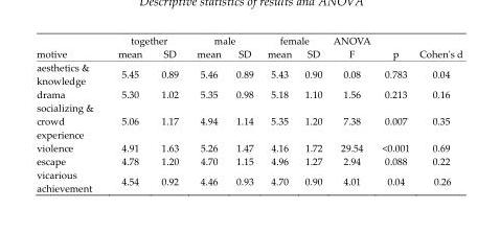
<table><thead><tr><td rowspan="2">motive</td><td colspan="2">together</td><td colspan="2">male</td><td colspan="2">female</td><td rowspan="2">ANOVA F</td><td rowspan="2">p</td><td rowspan="2">Cohen&#x27;s d</td></tr><tr><td>mean</td><td>SD</td><td>mean</td><td>SD</td><td>mean</td><td>SD</td></tr></thead><tbody><tr><td>aesthetics &amp; knowledge</td><td>5.45</td><td>0.89</td><td>5.46</td><td>0.89</td><td>5.43</td><td>0.90</td><td>0.08</td><td>0.783</td><td>0.04</td></tr><tr><td>drama</td><td>5.30</td><td>1.02</td><td>5.35</td><td>0.98</td><td>5.18</td><td>1.10</td><td>1.56</td><td>0.213</td><td>0.16</td></tr><tr><td>socializing &amp; crowd experience</td><td>5.06</td><td>1.17</td><td>4.94</td><td>1.14</td><td>5.35</td><td>1.20</td><td>7.38</td><td>0.007</td><td>0.35</td></tr><tr><td>violence</td><td>4.91</td><td>1.63</td><td>5.26</td><td>1.47</td><td>4.16</td><td>1.72</td><td>29.54</td><td>&lt;0.001</td><td>0.69</td></tr><tr><td>escape</td><td>4.78</td><td>1.20</td><td>4.70</td><td>1.15</td><td>4.96</td><td>1.27</td><td>2.94</td><td>0.088</td><td>0.22</td></tr><tr><td>vicarious achievement</td><td>4.54</td><td>0.92</td><td>4.46</td><td>0.93</td><td>4.70</td><td>0.90</td><td>4.01</td><td>0.04</td><td>0.26</td></tr></tbody></table>